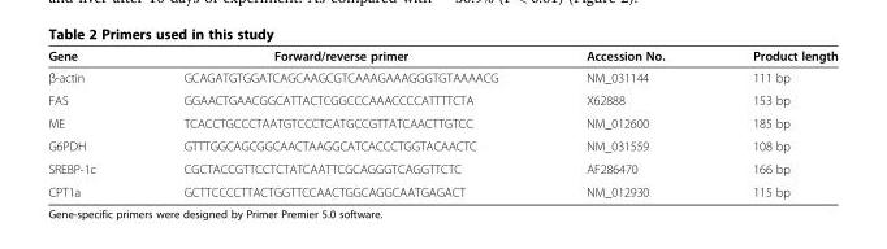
<table><thead><tr><td>Gene</td><td>Forward/reverse primer</td><td>Accession No.</td><td>Product length</td></tr></thead><tbody><tr><td>β-actin</td><td>GCAGATGTGGATCAGCAAGCGTCAAAGAAAGGGTGTAAAACG</td><td>NM_031144</td><td>111 bp</td></tr><tr><td>FAS</td><td>GGAACTGAACGGCATTACTCGGCCCAAACCCCATTTTCTA</td><td>X62888</td><td>153 bp</td></tr><tr><td>ME</td><td>TCACCTGCCCTAATGTCCCTCATGCCGTTATCAACTTGTCC</td><td>NM_012600</td><td>185 bp</td></tr><tr><td>G6PDH</td><td>GTTTGGCAGCGGCAACTAAGGCATCACCCTGGTACAACTC</td><td>NM_031559</td><td>108 bp</td></tr><tr><td>SREBP-1c</td><td>CGCTACCGTTCCTCTATCAATTCGCAGGGTCAGGTTCTC</td><td>AF286470</td><td>166 bp</td></tr><tr><td>CPT1a</td><td>GCTTCCCCTTACTGGTTCCAACTGGCAGGCAATGAGACT</td><td>NM_012930</td><td>115 bp</td></tr></tbody></table>